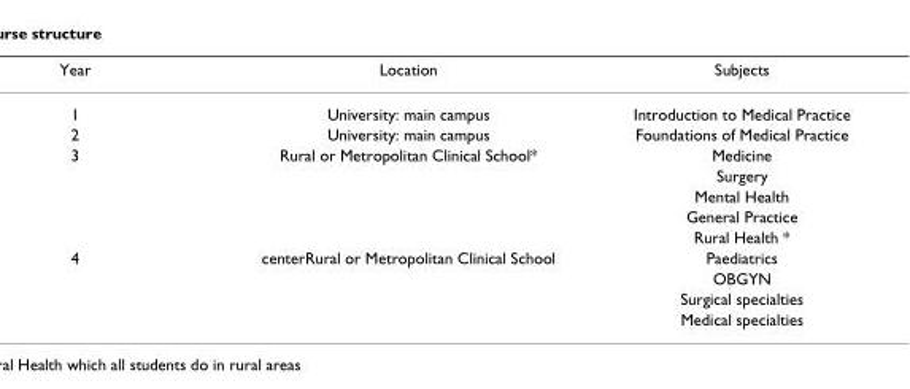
<table><thead><tr><td>Year</td><td>Location</td><td>Subjects</td></tr></thead><tbody><tr><td>1</td><td>University: main campus</td><td>Introduction to Medical Practice</td></tr><tr><td>2</td><td>University: main campus</td><td>Foundations of Medical Practice</td></tr><tr><td rowspan="5">3</td><td>Rural or Metropolitan Clinical School*</td><td>Medicine</td></tr><tr><td></td><td>Surgery</td></tr><tr><td></td><td>Mental Health</td></tr><tr><td></td><td>General Practice</td></tr><tr><td></td><td>Rural Health *</td></tr><tr><td rowspan="4">4</td><td>centerRural or Metropolitan Clinical School</td><td>Paediatrics</td></tr><tr><td></td><td>OBGYN</td></tr><tr><td></td><td>Surgical specialties</td></tr><tr><td></td><td>Medical specialties</td></tr></tbody></table>